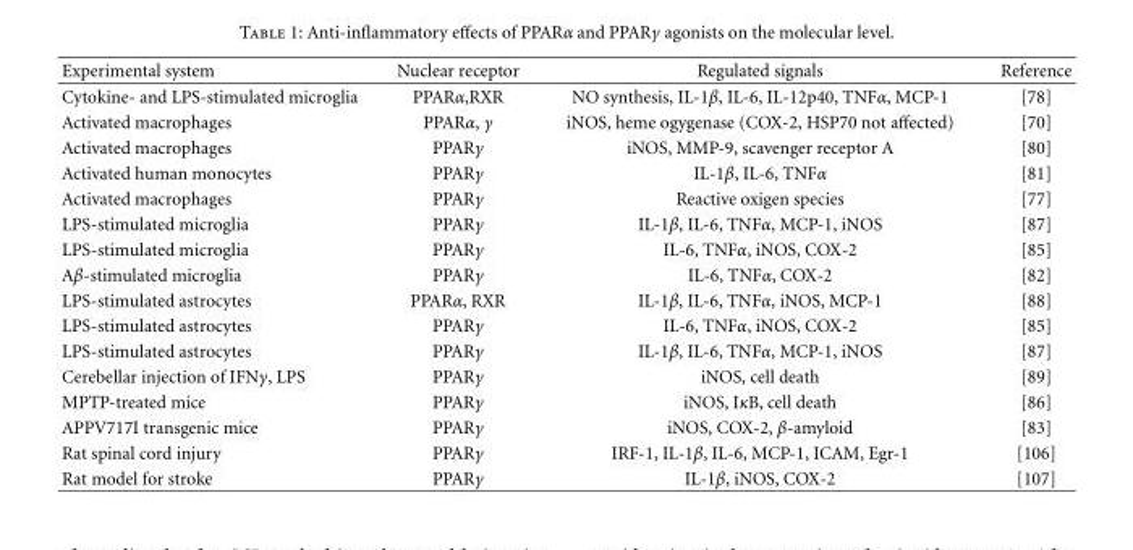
<table><tbody><tr><td>Experimental system</td><td>Nuclear receptor</td><td>Regulated signals</td><td>Reference</td></tr><tr><td>Cytokine- and LPS-stimulated microglia</td><td>PPARα,RXR</td><td>NO synthesis, IL-1β, IL-6, IL-12p40, TNFα, MCP-1</td><td>[78]</td></tr><tr><td>Activated macrophages</td><td>PPARα, γ</td><td>iNOS, heme ogygenase (COX-2, HSP70 not affected)</td><td>[70]</td></tr><tr><td>Activated macrophages</td><td>PPARγ</td><td>iNOS, MMP-9, scavenger receptor A</td><td>[80]</td></tr><tr><td>Activated human monocytes</td><td>PPARγ</td><td>IL-1β, IL-6, TNFα</td><td>[81]</td></tr><tr><td>Activated macrophages</td><td>PPARγ</td><td>Reactive oxigen species</td><td>[77]</td></tr><tr><td>LPS-stimulated microglia</td><td>PPARγ</td><td>IL-1β, IL-6, TNFα, MCP-1, iNOS</td><td>[87]</td></tr><tr><td>LPS-stimulated microglia</td><td>PPARγ</td><td>IL-6, TNFα, iNOS, COX-2</td><td>[85]</td></tr><tr><td>Aβ-stimulated microglia</td><td>PPARγ</td><td>IL-6, TNFα, COX-2</td><td>[82]</td></tr><tr><td>LPS-stimulated astrocytes</td><td>PPARα, RXR</td><td>IL-1β, IL-6, TNFα, iNOS, MCP-1</td><td>[88]</td></tr><tr><td>LPS-stimulated astrocytes</td><td>PPARγ</td><td>IL-6, TNFα, iNOS, COX-2</td><td>[85]</td></tr><tr><td>LPS-stimulated astrocytes</td><td>PPARγ</td><td>IL-1β, IL-6, TNFα, MCP-1, iNOS</td><td>[87]</td></tr><tr><td>Cerebellar injection of IFNγ, LPS</td><td>PPARγ</td><td>iNOS, cell death</td><td>[89]</td></tr><tr><td>MPTP-treated mice</td><td>PPARγ</td><td>iNOS, IκB, cell death</td><td>[86]</td></tr><tr><td>APPV717I transgenic mice</td><td>PPARγ</td><td>iNOS, COX-2, β-amyloid</td><td>[83]</td></tr><tr><td>Rat spinal cord injury</td><td>PPARγ</td><td>IRF-1, IL-1β, IL-6, MCP-1, ICAM, Egr-1</td><td>[106]</td></tr><tr><td>Rat model for stroke</td><td>PPARγ</td><td>IL-1β, iNOS, COX-2</td><td>[107]</td></tr></tbody></table>